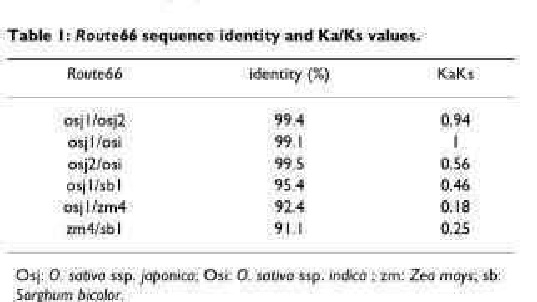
<table><thead><tr><td>Route66</td><td>identity (%)</td><td>KaKs</td></tr></thead><tbody><tr><td>osj1/osj2</td><td>99.4</td><td>0.94</td></tr><tr><td>osj1/osi</td><td>99.1</td><td>1</td></tr><tr><td>osj2/osi</td><td>99.5</td><td>0.56</td></tr><tr><td>osj1/sb1</td><td>95.4</td><td>0.46</td></tr><tr><td>osj1/zm4</td><td>92.4</td><td>0.18</td></tr><tr><td>zm4/sb1</td><td>91.1</td><td>0.25</td></tr></tbody></table>